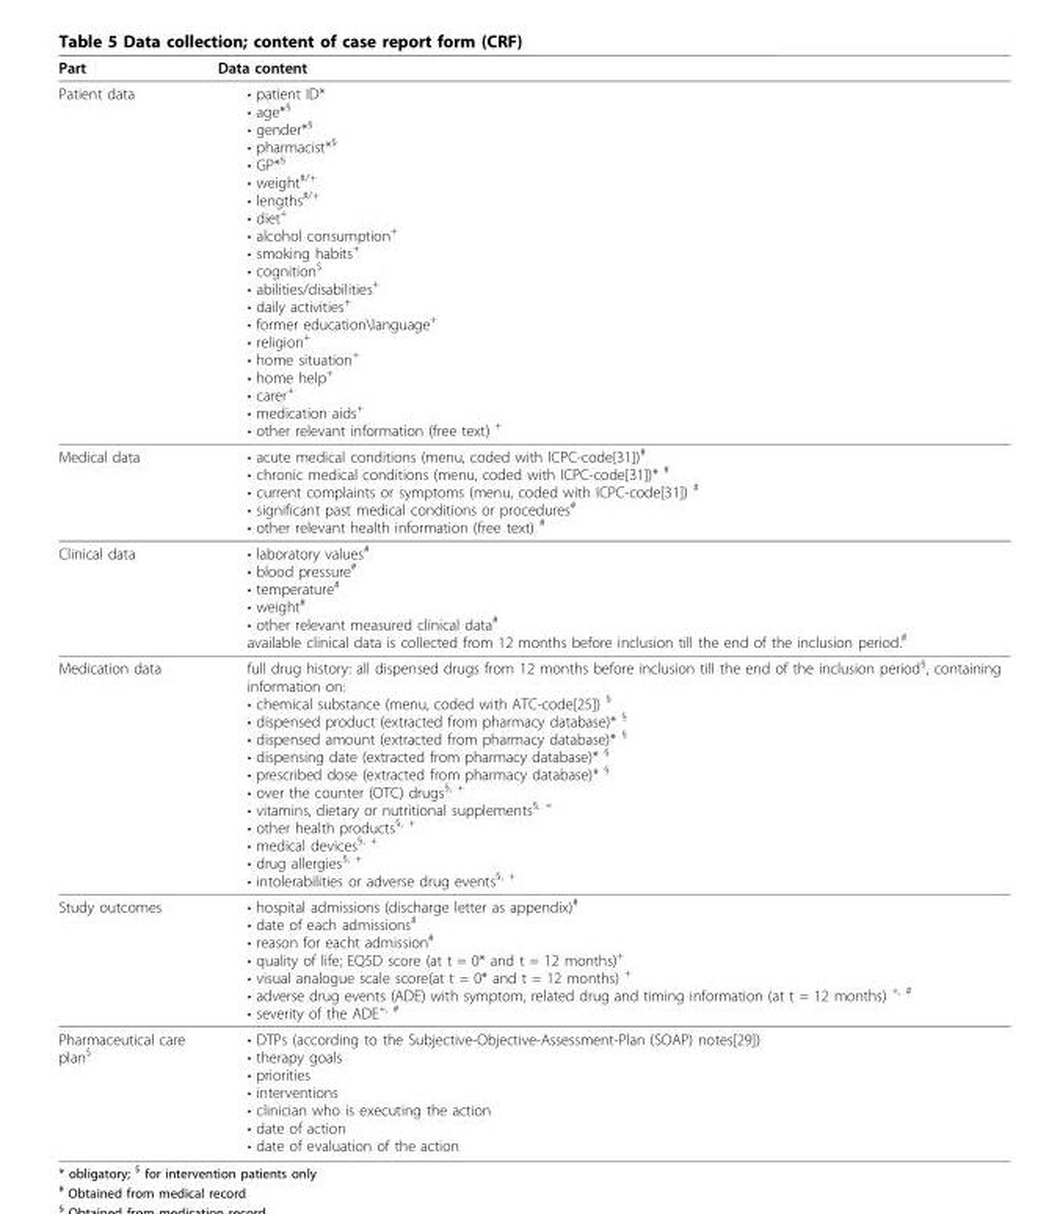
<table><thead><tr><td>Part</td><td>Data content</td></tr></thead><tbody><tr><td>Patient data</td><td>• patient ID* • age*<sup>§</sup> • gender*<sup>§</sup> • pharmacist*<sup>§</sup> • GP*<sup>§</sup> • weight<sup>#/+</sup> • lengths<sup>#/+</sup> • diet<sup>+</sup> • alcohol consumption<sup>+</sup> • smoking habits<sup>+</sup> • cognition<sup>$</sup> • abilities/disabilities<sup>+</sup> • daily activities<sup>+</sup> • former education\language<sup>+</sup> • religion<sup>+</sup> • home situation<sup>+</sup> • home help<sup>+</sup> • carer<sup>+</sup> • medication aids<sup>+</sup> • other relevant information (free text) <sup>+</sup></td></tr><tr><td>Medical data</td><td>• acute medical conditions (menu, coded with ICPC-code[31])<sup>#</sup> • chronic medical conditions (menu, coded with ICPC-code[31])* <sup>#</sup> • current complaints or symptoms (menu, coded with ICPC-code[31]) <sup>#</sup> • significant past medical conditions or procedures<sup>#</sup> • other relevant health information (free text) <sup>#</sup></td></tr><tr><td>Clinical data</td><td>• laboratory values<sup>#</sup> • blood pressure<sup>#</sup> • temperature<sup>#</sup> • weight<sup>#</sup> • other relevant measured clinical data<sup>#</sup> available clinical data is collected from 12 months before inclusion till the end of the inclusion period.<sup>#</sup></td></tr><tr><td>Medication data</td><td>full drug history: all dispensed drugs from 12 months before inclusion till the end of the inclusion period<sup>§</sup>, containing information on: • chemical substance (menu, coded with ATC-code[25]) <sup>§</sup> • dispensed product (extracted from pharmacy database)* <sup>§</sup> • dispensed amount (extracted from pharmacy database)* <sup>§</sup> • dispensing date (extracted from pharmacy database)* <sup>§</sup> • prescribed dose (extracted from pharmacy database)* <sup>§</sup> • over the counter (OTC) drugs<sup>§, +</sup> • vitamins, dietary or nutritional supplements<sup>§, +</sup> • other health products<sup>§, +</sup> • medical devices<sup>§, +</sup> • drug allergies<sup>§, +</sup> • intolerabilities or adverse drug events<sup>§, +</sup></td></tr><tr><td>Study outcomes</td><td>• hospital admissions (discharge letter as appendix)<sup>#</sup> • date of each admissions<sup>#</sup> • reason for eacht admission<sup>#</sup> • quality of life; EQ5D score (at t = 0* and t = 12 months)<sup>+</sup> • visual analogue scale score(at t = 0* and t = 12 months) <sup>+</sup> • adverse drug events (ADE) with symptom, related drug and timing information (at t = 12 months) <sup>+, #</sup> • severity of the ADE<sup>+, #</sup></td></tr><tr><td>Pharmaceutical care plan<sup>$</sup></td><td>• DTPs (according to the Subjective-Objective-Assessment-Plan (SOAP) notes[29]) • therapy goals • priorities • interventions • clinician who is executing the action • date of action • date of evaluation of the action</td></tr></tbody></table>